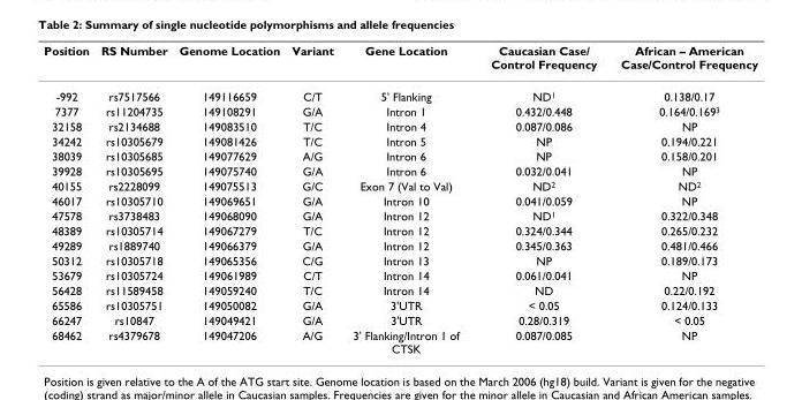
<table><thead><tr><td>Position</td><td>RS Number</td><td>Genome Location</td><td>Variant</td><td>Gene Location</td><td>Caucasian Case/ Control Frequency</td><td>African – American Case/Control Frequency</td></tr></thead><tbody><tr><td>-992</td><td>rs7517566</td><td>149116659</td><td>C/T</td><td>5&#x27; Flanking</td><td>ND<sup>1</sup></td><td>0.138/0.17</td></tr><tr><td>7377</td><td>rs11204735</td><td>149108291</td><td>G/A</td><td>Intron 1</td><td>0.432/0.448</td><td>0.164/0.169<sup>3</sup></td></tr><tr><td>32158</td><td>rs2134688</td><td>149083510</td><td>T/C</td><td>Intron 4</td><td>0.087/0.086</td><td>NP</td></tr><tr><td>34242</td><td>rs10305679</td><td>149081426</td><td>T/C</td><td>Intron 5</td><td>NP</td><td>0.194/0.221</td></tr><tr><td>38039</td><td>rs10305685</td><td>149077629</td><td>A/G</td><td>Intron 6</td><td>NP</td><td>0.158/0.201</td></tr><tr><td>39928</td><td>rs10305695</td><td>149075740</td><td>G/A</td><td>Intron 6</td><td>0.032/0.041</td><td>NP</td></tr><tr><td>40155</td><td>rs2228099</td><td>149075513</td><td>G/C</td><td>Exon 7 (Val to Val)</td><td>ND<sup>2</sup></td><td>ND<sup>2</sup></td></tr><tr><td>46017</td><td>rs10305710</td><td>149069651</td><td>G/A</td><td>Intron 10</td><td>0.041/0.059</td><td>NP</td></tr><tr><td>47578</td><td>rs3738483</td><td>149068090</td><td>G/A</td><td>Intron 12</td><td>ND<sup>1</sup></td><td>0.322/0.348</td></tr><tr><td>48389</td><td>rs10305714</td><td>149067279</td><td>T/C</td><td>Intron 12</td><td>0.324/0.344</td><td>0.265/0.232</td></tr><tr><td>49289</td><td>rs1889740</td><td>149066379</td><td>G/A</td><td>Intron 12</td><td>0.345/0.363</td><td>0.481/0.466</td></tr><tr><td>50312</td><td>rs10305718</td><td>149065356</td><td>C/G</td><td>Intron 13</td><td>NP</td><td>0.189/0.173</td></tr><tr><td>53679</td><td>rs10305724</td><td>149061989</td><td>C/T</td><td>Intron 14</td><td>0.061/0.041</td><td>NP</td></tr><tr><td>56428</td><td>rs11589458</td><td>149059240</td><td>T/C</td><td>Intron 14</td><td>ND</td><td>0.22/0.192</td></tr><tr><td>65586</td><td>rs10305751</td><td>149050082</td><td>G/A</td><td>3&#x27;UTR</td><td>&lt; 0.05</td><td>0.124/0.133</td></tr><tr><td>66247</td><td>rs10847</td><td>149049421</td><td>G/A</td><td>3&#x27;UTR</td><td>0.28/0.319</td><td>&lt; 0.05</td></tr><tr><td>68462</td><td>rs4379678</td><td>149047206</td><td>A/G</td><td>3&#x27; Flanking/Intron 1 of CTSK</td><td>0.087/0.085</td><td>NP</td></tr></tbody></table>